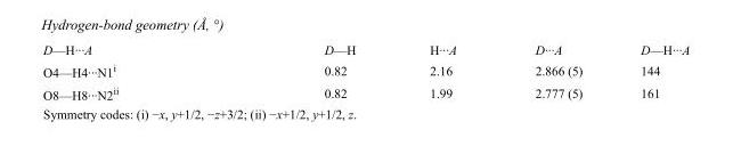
<table><tbody><tr><td>D—H···A</td><td>D—H</td><td>H···A</td><td>D···A</td><td>D—H···A</td></tr><tr><td>O4—H4···N1<sup>i</sup></td><td>0.82</td><td>2.16</td><td>2.866 (5)</td><td>144</td></tr><tr><td>O8—H8···N2<sup>ii</sup></td><td>0.82</td><td>1.99</td><td>2.777 (5)</td><td>161</td></tr></tbody></table>